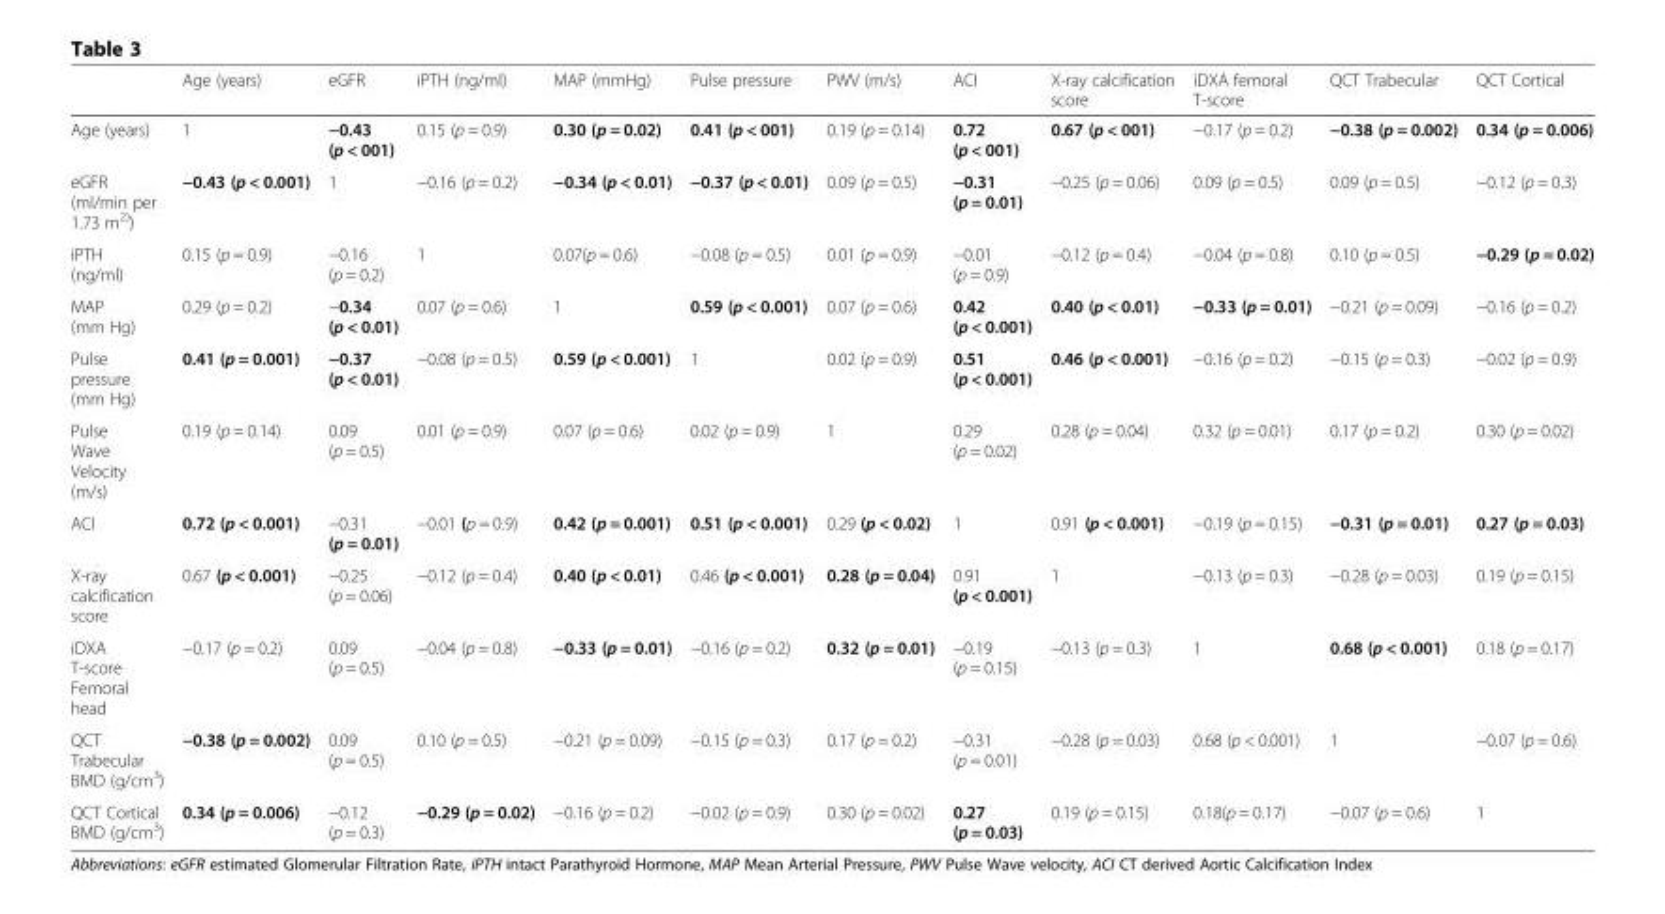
<table><thead><tr><td></td><td>Age (years)</td><td>eGFR</td><td>iPTH (ng/ml)</td><td>MAP (mmHg)</td><td>Pulse pressure</td><td>PWV (m/s)</td><td>ACI</td><td>X-ray calcification score</td><td>iDXA femoral T-score</td><td>QCT Trabecular</td><td>QCT Cortical</td></tr></thead><tbody><tr><td>Age (years)</td><td>1</td><td>−0.43 (p &lt; 001)</td><td>0.15 (p = 0.9)</td><td>0.30 (p = 0.02)</td><td>0.41 (p &lt; 001)</td><td>0.19 (p = 0.14)</td><td>0.72 (p &lt; 001)</td><td>0.67 (p &lt; 001)</td><td>−0.17 (p = 0.2)</td><td>−0.38 (p = 0.002)</td><td>0.34 (p = 0.006)</td></tr><tr><td>eGFR (ml/min per 1.73 m<sup>2)</sup>)</td><td>−0.43 (p &lt; 0.001)</td><td>1</td><td>−0.16 (p = 0.2)</td><td>−0.34 (p &lt; 0.01)</td><td>−0.37 (p &lt; 0.01)</td><td>0.09 (p = 0.5)</td><td>−0.31 (p = 0.01)</td><td>−0.25 (p = 0.06)</td><td>0.09 (p = 0.5)</td><td>0.09 (p = 0.5)</td><td>−0.12 (p = 0.3)</td></tr><tr><td>iPTH (ng/ml)</td><td>0.15 (p = 0.9)</td><td>−0.16 (p = 0.2)</td><td>1</td><td>0.07(p = 0.6)</td><td>−0.08 (p = 0.5)</td><td>0.01 (p = 0.9)</td><td>−0.01 (p = 0.9)</td><td>−0.12 (p = 0.4)</td><td>−0.04 (p = 0.8)</td><td>0.10 (p = 0.5)</td><td>−0.29 (p = 0.02)</td></tr><tr><td>MAP (mm Hg)</td><td>0.29 (p = 0.2)</td><td>−0.34 (p &lt; 0.01)</td><td>0.07 (p = 0.6)</td><td>1</td><td>0.59 (p &lt; 0.001)</td><td>0.07 (p = 0.6)</td><td>0.42 (p &lt; 0.001)</td><td>0.40 (p &lt; 0.01)</td><td>−0.33 (p = 0.01)</td><td>−0.21 (p = 0.09)</td><td>−0.16 (p = 0.2)</td></tr><tr><td>Pulse pressure (mm Hg)</td><td>0.41 (p = 0.001)</td><td>−0.37 (p &lt; 0.01)</td><td>−0.08 (p = 0.5)</td><td>0.59 (p &lt; 0.001)</td><td>1</td><td>0.02 (p = 0.9)</td><td>0.51 (p &lt; 0.001)</td><td>0.46 (p &lt; 0.001)</td><td>−0.16 (p = 0.2)</td><td>−0.15 (p = 0.3)</td><td>−0.02 (p = 0.9)</td></tr><tr><td>Pulse Wave Velocity (m/s)</td><td>0.19 (p = 0.14)</td><td>0.09 (p = 0.5)</td><td>0.01 (p = 0.9)</td><td>0.07 (p = 0.6)</td><td>0.02 (p = 0.9)</td><td>1</td><td>0.29 (p = 0.02)</td><td>0.28 (p = 0.04)</td><td>0.32 (p = 0.01)</td><td>0.17 (p = 0.2)</td><td>0.30 (p = 0.02)</td></tr><tr><td>ACI</td><td>0.72 (p &lt; 0.001)</td><td>−0.31 (p = 0.01)</td><td>−0.01 (p = 0.9)</td><td>0.42 (p = 0.001)</td><td>0.51 (p &lt; 0.001)</td><td>0.29 (p &lt; 0.02)</td><td>1</td><td>0.91 (p &lt; 0.001)</td><td>−0.19 (p = 0.15)</td><td>−0.31 (p = 0.01)</td><td>0.27 (p = 0.03)</td></tr><tr><td>X-ray calcification score</td><td>0.67 (p &lt; 0.001)</td><td>−0.25 (p = 0.06)</td><td>−0.12 (p = 0.4)</td><td>0.40 (p &lt; 0.01)</td><td>0.46 (p &lt; 0.001)</td><td>0.28 (p = 0.04)</td><td>0.91 (p &lt; 0.001)</td><td>1</td><td>−0.13 (p = 0.3)</td><td>−0.28 (p = 0.03)</td><td>0.19 (p = 0.15)</td></tr><tr><td>iDXA T-score Femoral head</td><td>−0.17 (p = 0.2)</td><td>0.09 (p = 0.5)</td><td>−0.04 (p = 0.8)</td><td>−0.33 (p = 0.01)</td><td>−0.16 (p = 0.2)</td><td>0.32 (p = 0.01)</td><td>−0.19 (p = 0.15)</td><td>−0.13 (p = 0.3)</td><td>1</td><td>0.68 (p &lt; 0.001)</td><td>0.18 (p = 0.17)</td></tr><tr><td>QCT Trabecular BMD (g/cm<sup>3</sup>)</td><td>−0.38 (p = 0.002)</td><td>0.09 (p = 0.5)</td><td>0.10 (p = 0.5)</td><td>−0.21 (p = 0.09)</td><td>−0.15 (p = 0.3)</td><td>0.17 (p = 0.2)</td><td>−0.31 (p = 0.01)</td><td>−0.28 (p = 0.03)</td><td>0.68 (p &lt; 0.001)</td><td>1</td><td>−0.07 (p = 0.6)</td></tr><tr><td>QCT Cortical BMD (g/cm<sup>3</sup>)</td><td>0.34 (p = 0.006)</td><td>−0.12 (p = 0.3)</td><td>−0.29 (p = 0.02)</td><td>−0.16 (p = 0.2)</td><td>−0.02 (p = 0.9)</td><td>0.30 (p = 0.02)</td><td>0.27 (p = 0.03)</td><td>0.19 (p = 0.15)</td><td>0.18(p = 0.17)</td><td>−0.07 (p = 0.6)</td><td>1</td></tr></tbody></table>